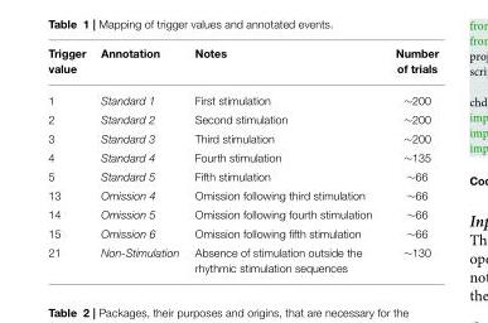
<table><thead><tr><td>Trigger value</td><td>Annotation</td><td>Notes</td><td>Number of trials</td></tr></thead><tbody><tr><td>1</td><td>Standard 1</td><td>First stimulation</td><td>∼200</td></tr><tr><td>2</td><td>Standard 2</td><td>Second stimulation</td><td>∼200</td></tr><tr><td>3</td><td>Standard 3</td><td>Third stimulation</td><td>∼200</td></tr><tr><td>4</td><td>Standard 4</td><td>Fourth stimulation</td><td>∼135</td></tr><tr><td>5</td><td>Standard 5</td><td>Fifth stimulation</td><td>∼66</td></tr><tr><td>13</td><td>Omission 4</td><td>Omission following third stimulation</td><td>∼66</td></tr><tr><td>14</td><td>Omission 5</td><td>Omission following fourth stimulation</td><td>∼66</td></tr><tr><td>15</td><td>Omission 6</td><td>Omission following fifth stimulation</td><td>∼66</td></tr><tr><td>21</td><td>Non-Stimulation</td><td>Absence of stimulation outside the rhythmic stimulation sequences</td><td>∼130</td></tr></tbody></table>